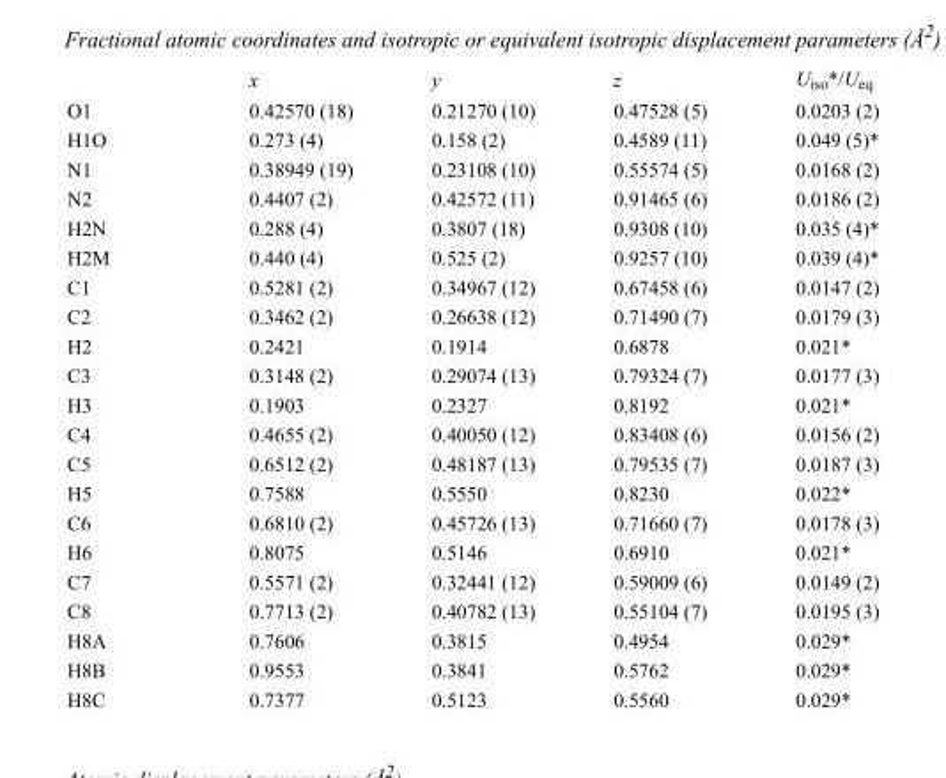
<table><thead><tr><td></td><td>x</td><td>y</td><td>z</td><td>U<sub>iso</sub>*/U<sub>eq</sub></td></tr></thead><tbody><tr><td>O1</td><td>0.42570 (18)</td><td>0.21270 (10)</td><td>0.47528 (5)</td><td>0.0203 (2)</td></tr><tr><td>H1O</td><td>0.273 (4)</td><td>0.158 (2)</td><td>0.4589 (11)</td><td>0.049 (5)*</td></tr><tr><td>N1</td><td>0.38949 (19)</td><td>0.23108 (10)</td><td>0.55574 (5)</td><td>0.0168 (2)</td></tr><tr><td>N2</td><td>0.4407 (2)</td><td>0.42572 (11)</td><td>0.91465 (6)</td><td>0.0186 (2)</td></tr><tr><td>H2N</td><td>0.288 (4)</td><td>0.3807 (18)</td><td>0.9308 (10)</td><td>0.035 (4)*</td></tr><tr><td>H2M</td><td>0.440 (4)</td><td>0.525 (2)</td><td>0.9257 (10)</td><td>0.039 (4)*</td></tr><tr><td>C1</td><td>0.5281 (2)</td><td>0.34967 (12)</td><td>0.67458 (6)</td><td>0.0147 (2)</td></tr><tr><td>C2</td><td>0.3462 (2)</td><td>0.26638 (12)</td><td>0.71490 (7)</td><td>0.0179 (3)</td></tr><tr><td>H2</td><td>0.2421</td><td>0.1914</td><td>0.6878</td><td>0.021*</td></tr><tr><td>C3</td><td>0.3148 (2)</td><td>0.29074 (13)</td><td>0.79324 (7)</td><td>0.0177 (3)</td></tr><tr><td>H3</td><td>0.1903</td><td>0.2327</td><td>0.8192</td><td>0.021*</td></tr><tr><td>C4</td><td>0.4655 (2)</td><td>0.40050 (12)</td><td>0.83408 (6)</td><td>0.0156 (2)</td></tr><tr><td>C5</td><td>0.6512 (2)</td><td>0.48187 (13)</td><td>0.79535 (7)</td><td>0.0187 (3)</td></tr><tr><td>H5</td><td>0.7588</td><td>0.5550</td><td>0.8230</td><td>0.022*</td></tr><tr><td>C6</td><td>0.6810 (2)</td><td>0.45726 (13)</td><td>0.71660 (7)</td><td>0.0178 (3)</td></tr><tr><td>H6</td><td>0.8075</td><td>0.5146</td><td>0.6910</td><td>0.021*</td></tr><tr><td>C7</td><td>0.5571 (2)</td><td>0.32441 (12)</td><td>0.59009 (6)</td><td>0.0149 (2)</td></tr><tr><td>C8</td><td>0.7713 (2)</td><td>0.40782 (13)</td><td>0.55104 (7)</td><td>0.0195 (3)</td></tr><tr><td>H8A</td><td>0.7606</td><td>0.3815</td><td>0.4954</td><td>0.029*</td></tr><tr><td>H8B</td><td>0.9553</td><td>0.3841</td><td>0.5762</td><td>0.029*</td></tr><tr><td>H8C</td><td>0.7377</td><td>0.5123</td><td>0.5560</td><td>0.029*</td></tr></tbody></table>